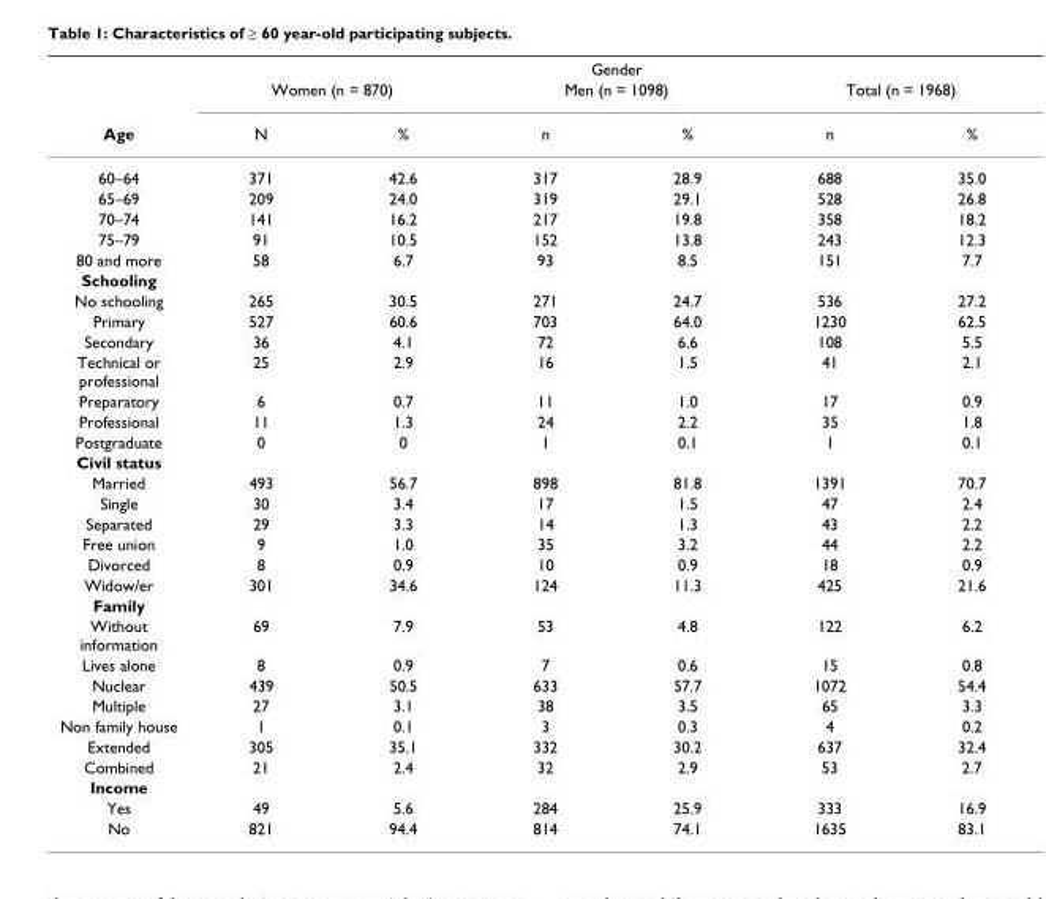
<table><thead><tr><td rowspan="3">Age</td><td colspan="6">Gender</td></tr><tr><td colspan="2">Women (n = 870)</td><td colspan="2">Men (n = 1098)</td><td colspan="2">Total (n = 1968)</td></tr><tr><td>N</td><td>%</td><td>n</td><td>%</td><td>n</td><td>%</td></tr></thead><tbody><tr><td>60–64</td><td>371</td><td>42.6</td><td>317</td><td>28.9</td><td>688</td><td>35.0</td></tr><tr><td>65–69</td><td>209</td><td>24.0</td><td>319</td><td>29.1</td><td>528</td><td>26.8</td></tr><tr><td>70–74</td><td>141</td><td>16.2</td><td>217</td><td>19.8</td><td>358</td><td>18.2</td></tr><tr><td>75–79</td><td>91</td><td>10.5</td><td>152</td><td>13.8</td><td>243</td><td>12.3</td></tr><tr><td>80 and more</td><td>58</td><td>6.7</td><td>93</td><td>8.5</td><td>151</td><td>7.7</td></tr><tr><td colspan="7">Schooling</td></tr><tr><td>No schooling</td><td>265</td><td>30.5</td><td>271</td><td>24.7</td><td>536</td><td>27.2</td></tr><tr><td>Primary</td><td>527</td><td>60.6</td><td>703</td><td>64.0</td><td>1230</td><td>62.5</td></tr><tr><td>Secondary</td><td>36</td><td>4.1</td><td>72</td><td>6.6</td><td>108</td><td>5.5</td></tr><tr><td>Technical or professional</td><td>25</td><td>2.9</td><td>16</td><td>1.5</td><td>41</td><td>2.1</td></tr><tr><td>Preparatory</td><td>6</td><td>0.7</td><td>11</td><td>1.0</td><td>17</td><td>0.9</td></tr><tr><td>Professional</td><td>11</td><td>1.3</td><td>24</td><td>2.2</td><td>35</td><td>1.8</td></tr><tr><td>Postgraduate</td><td>0</td><td>0</td><td>1</td><td>0.1</td><td>1</td><td>0.1</td></tr><tr><td colspan="7">Civil status</td></tr><tr><td>Married</td><td>493</td><td>56.7</td><td>898</td><td>81.8</td><td>1391</td><td>70.7</td></tr><tr><td>Single</td><td>30</td><td>3.4</td><td>17</td><td>1.5</td><td>47</td><td>2.4</td></tr><tr><td>Separated</td><td>29</td><td>3.3</td><td>14</td><td>1.3</td><td>43</td><td>2.2</td></tr><tr><td>Free union</td><td>9</td><td>1.0</td><td>35</td><td>3.2</td><td>44</td><td>2.2</td></tr><tr><td>Divorced</td><td>8</td><td>0.9</td><td>10</td><td>0.9</td><td>18</td><td>0.9</td></tr><tr><td>Widow/er</td><td>301</td><td>34.6</td><td>124</td><td>11.3</td><td>425</td><td>21.6</td></tr><tr><td colspan="7">Family</td></tr><tr><td>Without information</td><td>69</td><td>7.9</td><td>53</td><td>4.8</td><td>122</td><td>6.2</td></tr><tr><td>Lives alone</td><td>8</td><td>0.9</td><td>7</td><td>0.6</td><td>15</td><td>0.8</td></tr><tr><td>Nuclear</td><td>439</td><td>50.5</td><td>633</td><td>57.7</td><td>1072</td><td>54.4</td></tr><tr><td>Multiple</td><td>27</td><td>3.1</td><td>38</td><td>3.5</td><td>65</td><td>3.3</td></tr><tr><td>Non family house</td><td>1</td><td>0.1</td><td>3</td><td>0.3</td><td>4</td><td>0.2</td></tr><tr><td>Extended</td><td>305</td><td>35.1</td><td>332</td><td>30.2</td><td>637</td><td>32.4</td></tr><tr><td>Combined</td><td>21</td><td>2.4</td><td>32</td><td>2.9</td><td>53</td><td>2.7</td></tr><tr><td colspan="7">Income</td></tr><tr><td>Yes</td><td>49</td><td>5.6</td><td>284</td><td>25.9</td><td>333</td><td>16.9</td></tr><tr><td>No</td><td>821</td><td>94.4</td><td>814</td><td>74.1</td><td>1635</td><td>83.1</td></tr></tbody></table>